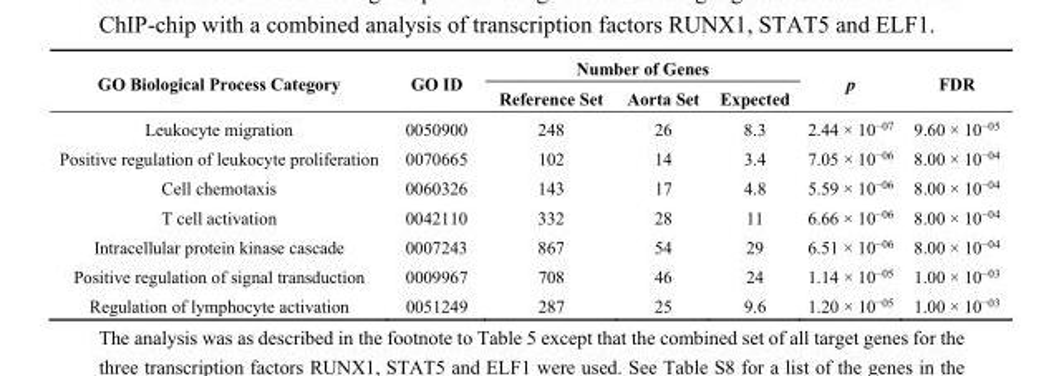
<table><thead><tr><td rowspan="2">GO Biological Process Category</td><td rowspan="2">GO ID</td><td colspan="3">Number of Genes</td><td rowspan="2">p</td><td rowspan="2">FDR</td></tr><tr><td>Reference Set</td><td>Aorta Set</td><td>Expected</td></tr></thead><tbody><tr><td>Leukocyte migration</td><td>0050900</td><td>248</td><td>26</td><td>8.3</td><td>2.44 × 10<sup>−07</sup></td><td>9.60 × 10<sup>−05</sup></td></tr><tr><td>Positive regulation of leukocyte proliferation</td><td>0070665</td><td>102</td><td>14</td><td>3.4</td><td>7.05 × 10<sup>−06</sup></td><td>8.00 × 10<sup>−04</sup></td></tr><tr><td>Cell chemotaxis</td><td>0060326</td><td>143</td><td>17</td><td>4.8</td><td>5.59 × 10<sup>−06</sup></td><td>8.00 × 10<sup>−04</sup></td></tr><tr><td>T cell activation</td><td>0042110</td><td>332</td><td>28</td><td>11</td><td>6.66 × 10<sup>−06</sup></td><td>8.00 × 10<sup>−04</sup></td></tr><tr><td>Intracellular protein kinase cascade</td><td>0007243</td><td>867</td><td>54</td><td>29</td><td>6.51 × 10<sup>−06</sup></td><td>8.00 × 10<sup>−04</sup></td></tr><tr><td>Positive regulation of signal transduction</td><td>0009967</td><td>708</td><td>46</td><td>24</td><td>1.14 × 10<sup>−05</sup></td><td>1.00 × 10<sup>−03</sup></td></tr><tr><td>Regulation of lymphocyte activation</td><td>0051249</td><td>287</td><td>25</td><td>9.6</td><td>1.20 × 10<sup>−05</sup></td><td>1.00 × 10<sup>−03</sup></td></tr></tbody></table>